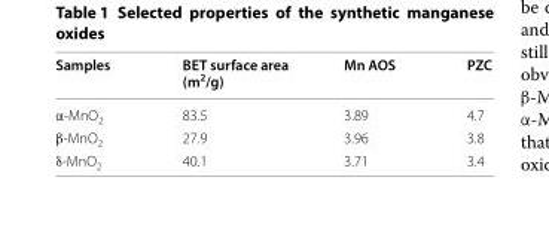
<table><thead><tr><td>Samples</td><td>BET surface area (m<sup>2</sup>/g)</td><td>Mn AOS</td><td>PZC</td></tr></thead><tbody><tr><td>α‑MnO<sub>2</sub></td><td>83.5</td><td>3.89</td><td>4.7</td></tr><tr><td>β‑MnO<sub>2</sub></td><td>27.9</td><td>3.96</td><td>3.8</td></tr><tr><td>δ‑MnO<sub>2</sub></td><td>40.1</td><td>3.71</td><td>3.4</td></tr></tbody></table>